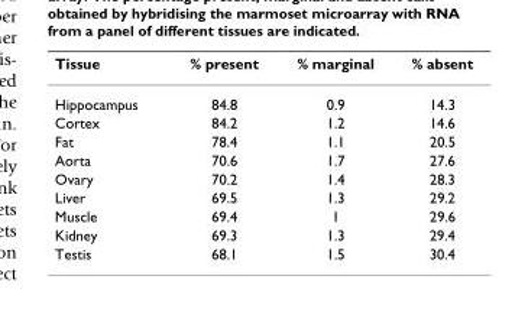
<table><thead><tr><td>Tissue</td><td>% present</td><td>% marginal</td><td>% absent</td></tr></thead><tbody><tr><td>Hippocampus</td><td>84.8</td><td>0.9</td><td>14.3</td></tr><tr><td>Cortex</td><td>84.2</td><td>1.2</td><td>14.6</td></tr><tr><td>Fat</td><td>78.4</td><td>1.1</td><td>20.5</td></tr><tr><td>Aorta</td><td>70.6</td><td>1.7</td><td>27.6</td></tr><tr><td>Ovary</td><td>70.2</td><td>1.4</td><td>28.3</td></tr><tr><td>Liver</td><td>69.5</td><td>1.3</td><td>29.2</td></tr><tr><td>Muscle</td><td>69.4</td><td>1</td><td>29.6</td></tr><tr><td>Kidney</td><td>69.3</td><td>1.3</td><td>29.4</td></tr><tr><td>Testis</td><td>68.1</td><td>1.5</td><td>30.4</td></tr></tbody></table>